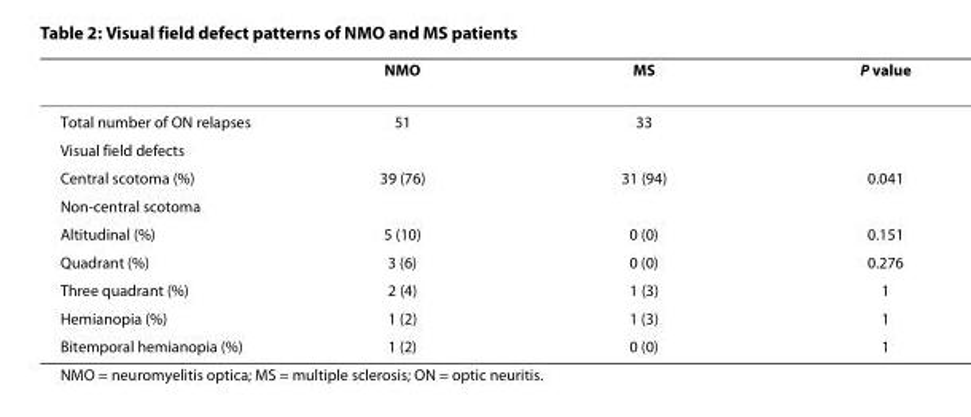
<table><thead><tr><td></td><td>NMO</td><td>MS</td><td>P value</td></tr></thead><tbody><tr><td>Total number of ON relapses</td><td>51</td><td>33</td><td></td></tr><tr><td colspan="4">Visual field defects</td></tr><tr><td>Central scotoma (%)</td><td>39 (76)</td><td>31 (94)</td><td>0.041</td></tr><tr><td colspan="4">Non-central scotoma</td></tr><tr><td>Altitudinal (%)</td><td>5 (10)</td><td>0 (0)</td><td>0.151</td></tr><tr><td>Quadrant (%)</td><td>3 (6)</td><td>0 (0)</td><td>0.276</td></tr><tr><td>Three quadrant (%)</td><td>2 (4)</td><td>1 (3)</td><td>1</td></tr><tr><td>Hemianopia (%)</td><td>1 (2)</td><td>1 (3)</td><td>1</td></tr><tr><td>Bitemporal hemianopia (%)</td><td>1 (2)</td><td>0 (0)</td><td>1</td></tr></tbody></table>